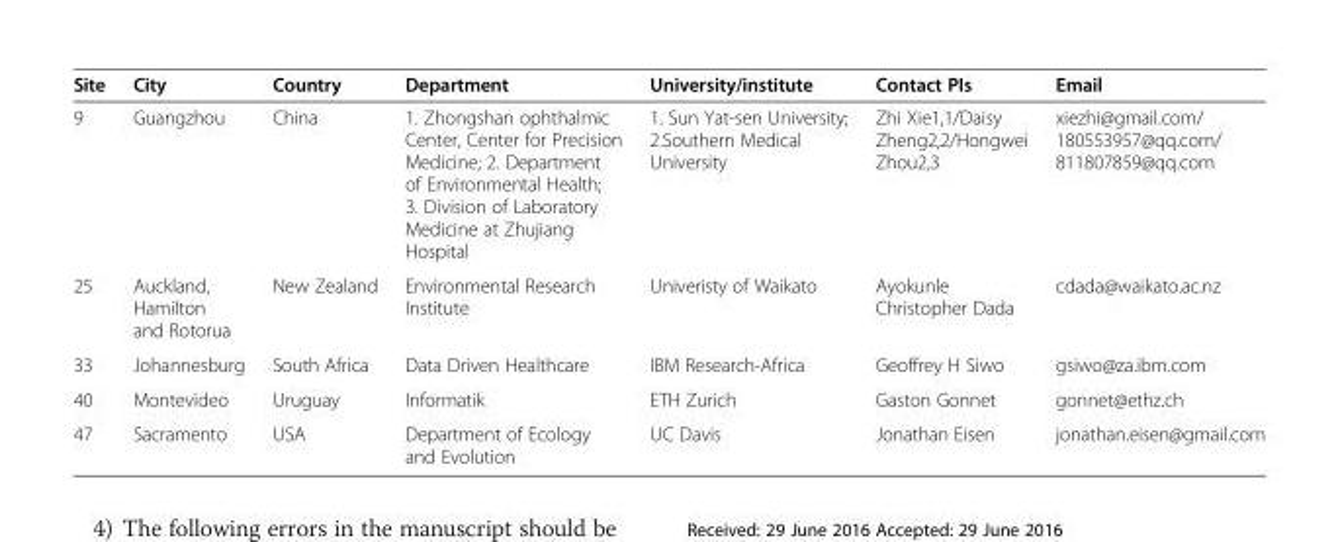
<table><tbody><tr><td>Site</td><td>City</td><td>Country</td><td>Department</td><td>University/institute</td><td>Contact PIs</td><td>Email</td></tr><tr><td>9</td><td>Guangzhou</td><td>China</td><td>1. Zhongshan ophthalmic Center, Center for Precision Medicine; 2. Department of Environmental Health; 3. Division of Laboratory Medicine at Zhujiang Hospital</td><td>1. Sun Yat-sen University; 2.Southern Medical University</td><td>Zhi Xie1,1/Daisy Zheng2,2/Hongwei Zhou2,3</td><td>xiezhi@gmail.com/ 180553957@qq.com/ 811807859@qq.com</td></tr><tr><td>25</td><td>Auckland, Hamilton and Rotorua</td><td>New Zealand</td><td>Environmental Research Institute</td><td>Univeristy of Waikato</td><td>Ayokunle Christopher Dada</td><td>cdada@waikato.ac.nz</td></tr><tr><td>33</td><td>Johannesburg</td><td>South Africa</td><td>Data Driven Healthcare</td><td>IBM Research-Africa</td><td>Geoffrey H Siwo</td><td>gsiwo@za.ibm.com</td></tr><tr><td>40</td><td>Montevideo</td><td>Uruguay</td><td>Informatik</td><td>ETH Zurich</td><td>Gaston Gonnet</td><td>gonnet@ethz.ch</td></tr><tr><td>47</td><td>Sacramento</td><td>USA</td><td>Department of Ecology and Evolution</td><td>UC Davis</td><td>Jonathan Eisen</td><td>jonathan.eisen@gmail.com</td></tr></tbody></table>